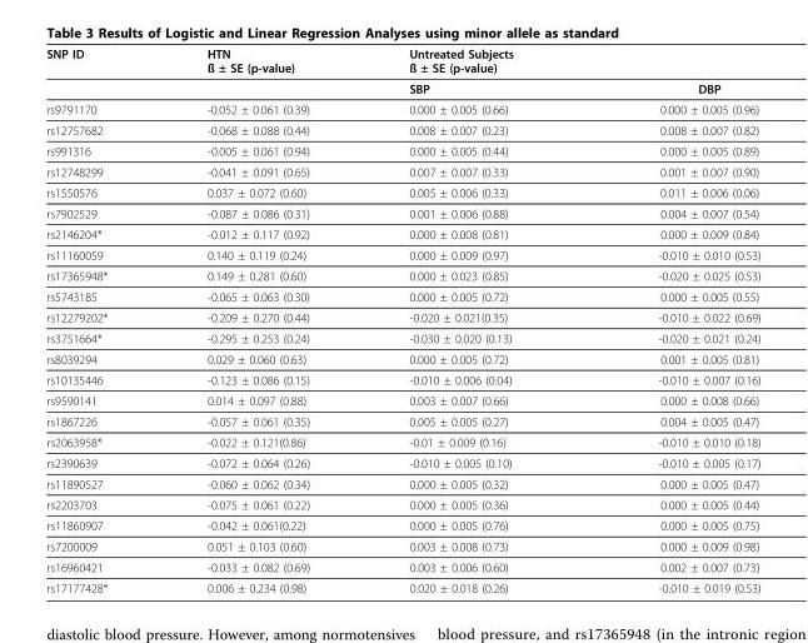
<table><thead><tr><td>SNP ID</td><td>HTN ß ± SE (p-value)</td><td>Untreated Subjects ß ± SE (p-value)</td><td></td></tr></thead><tbody><tr><td></td><td></td><td>SBP</td><td>DBP</td></tr><tr><td>rs9791170</td><td>-0.052 ± 0.061 (0.39)</td><td>0.000 ± 0.005 (0.66)</td><td>0.000 ± 0.005 (0.96)</td></tr><tr><td>rs12757682</td><td>-0.068 ± 0.088 (0.44)</td><td>0.008 ± 0.007 (0.23)</td><td>0.008 ± 0.007 (0.82)</td></tr><tr><td>rs991316</td><td>-0.005 ± 0.061 (0.94)</td><td>0.000 ± 0.005 (0.44)</td><td>0.000 ± 0.005 (0.89)</td></tr><tr><td>rs12748299</td><td>-0.041 ± 0.091 (0.65)</td><td>0.007 ± 0.007 (0.33)</td><td>0.001 ± 0.007 (0.90)</td></tr><tr><td>rs1550576</td><td>0.037 ± 0.072 (0.60)</td><td>0.005 ± 0.006 (0.33)</td><td>0.011 ± 0.006 (0.06)</td></tr><tr><td>rs7902529</td><td>-0.087 ± 0.086 (0.31)</td><td>0.001 ± 0.006 (0.88)</td><td>0.004 ± 0.007 (0.54)</td></tr><tr><td>rs2146204*</td><td>-0.012 ± 0.117 (0.92)</td><td>0.000 ± 0.008 (0.81)</td><td>0.000 ± 0.009 (0.84)</td></tr><tr><td>rs11160059</td><td>0.140 ± 0.119 (0.24)</td><td>0.000 ± 0.009 (0.97)</td><td>-0.010 ± 0.010 (0.53)</td></tr><tr><td>rs17365948*</td><td>0.149 ± 0.281 (0.60)</td><td>0.000 ± 0.023 (0.85)</td><td>-0.020 ± 0.025 (0.53)</td></tr><tr><td>rs5743185</td><td>-0.065 ± 0.063 (0.30)</td><td>0.000 ± 0.005 (0.72)</td><td>0.000 ± 0.005 (0.55)</td></tr><tr><td>rs12279202*</td><td>-0.209 ± 0.270 (0.44)</td><td>-0.020 ± 0.021(0.35)</td><td>-0.010 ± 0.022 (0.69)</td></tr><tr><td>rs3751664*</td><td>-0.295 ± 0.253 (0.24)</td><td>-0.030 ± 0.020 (0.13)</td><td>-0.020 ± 0.021 (0.24)</td></tr><tr><td>rs8039294</td><td>0.029 ± 0.060 (0.63)</td><td>0.000 ± 0.005 (0.72)</td><td>0.001 ± 0.005 (0.81)</td></tr><tr><td>rs10135446</td><td>-0.123 ± 0.086 (0.15)</td><td>-0.010 ± 0.006 (0.04)</td><td>-0.010 ± 0.007 (0.16)</td></tr><tr><td>rs9590141</td><td>0.014 ± 0.097 (0.88)</td><td>0.003 ± 0.007 (0.66)</td><td>0.000 ± 0.008 (0.66)</td></tr><tr><td>rs1867226</td><td>-0.057 ± 0.061 (0.35)</td><td>0.005 ± 0.005 (0.27)</td><td>0.004 ± 0.005 (0.47)</td></tr><tr><td>rs2063958*</td><td>-0.022 ± 0.121(0.86)</td><td>-0.01 ± 0.009 (0.16)</td><td>-0.010 ± 0.010 (0.18)</td></tr><tr><td>rs2390639</td><td>-0.072 ± 0.064 (0.26)</td><td>-0.010 ± 0.005 (0.10)</td><td>-0.010 ± 0.005 (0.17)</td></tr><tr><td>rs11890527</td><td>-0.060 ± 0.062 (0.34)</td><td>0.000 ± 0.005 (0.32)</td><td>0.000 ± 0.005 (0.47)</td></tr><tr><td>rs2203703</td><td>-0.075 ± 0.061 (0.22)</td><td>0.000 ± 0.005 (0.36)</td><td>0.000 ± 0.005 (0.44)</td></tr><tr><td>rs11860907</td><td>-0.042 ± 0.061(0.22)</td><td>0.000 ± 0.005 (0.76)</td><td>0.000 ± 0.005 (0.75)</td></tr><tr><td>rs7200009</td><td>0.051 ± 0.103 (0.60)</td><td>0.003 ± 0.008 (0.73)</td><td>0.000 ± 0.009 (0.98)</td></tr><tr><td>rs16960421</td><td>-0.033 ± 0.082 (0.69)</td><td>0.003 ± 0.006 (0.60)</td><td>0.002 ± 0.007 (0.73)</td></tr><tr><td>rs17177428*</td><td>0.006 ± 0.234 (0.98)</td><td>0.020 ± 0.018 (0.26)</td><td>-0.010 ± 0.019 (0.53)</td></tr></tbody></table>